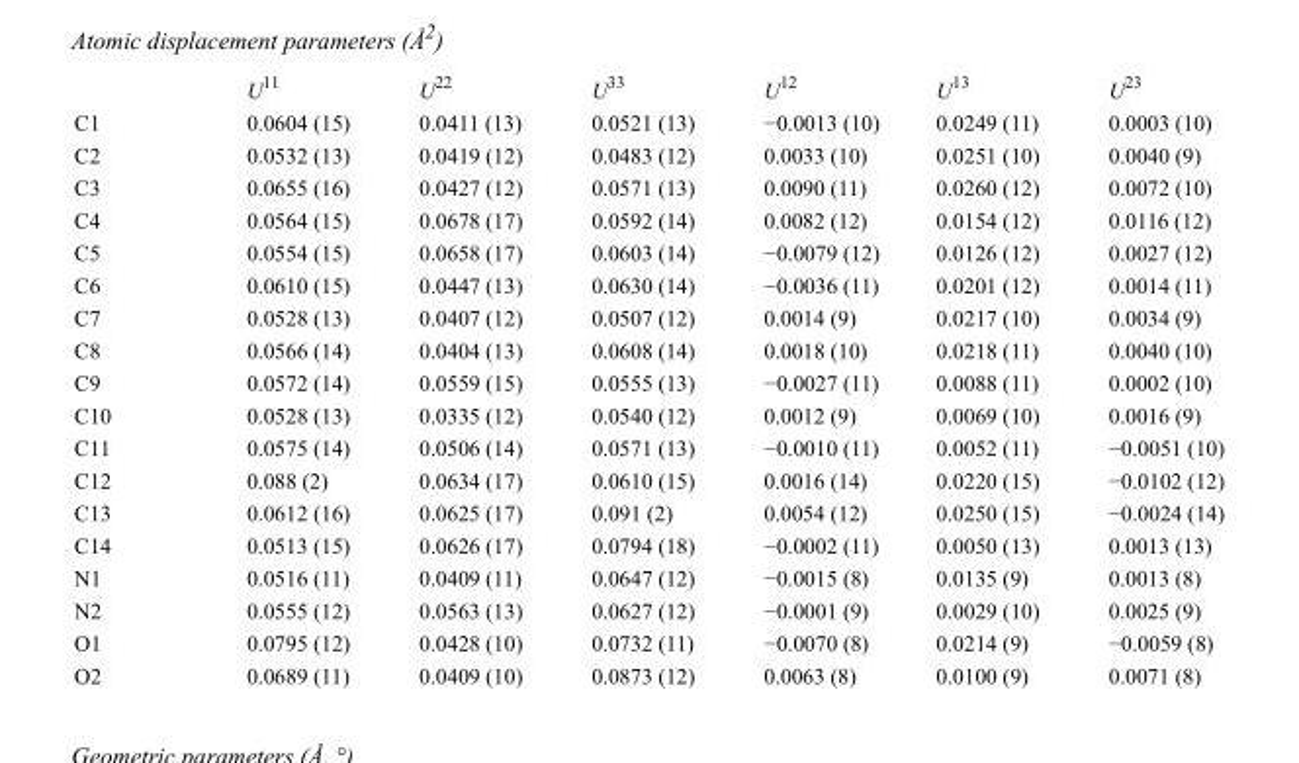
<table><thead><tr><td></td><td>U<sup>11</sup></td><td>U<sup>22</sup></td><td>U<sup>33</sup></td><td>U<sup>12</sup></td><td>U<sup>13</sup></td><td>U<sup>23</sup></td></tr></thead><tbody><tr><td>C1</td><td>0.0604 (15)</td><td>0.0411 (13)</td><td>0.0521 (13)</td><td>−0.0013 (10)</td><td>0.0249 (11)</td><td>0.0003 (10)</td></tr><tr><td>C2</td><td>0.0532 (13)</td><td>0.0419 (12)</td><td>0.0483 (12)</td><td>0.0033 (10)</td><td>0.0251 (10)</td><td>0.0040 (9)</td></tr><tr><td>C3</td><td>0.0655 (16)</td><td>0.0427 (12)</td><td>0.0571 (13)</td><td>0.0090 (11)</td><td>0.0260 (12)</td><td>0.0072 (10)</td></tr><tr><td>C4</td><td>0.0564 (15)</td><td>0.0678 (17)</td><td>0.0592 (14)</td><td>0.0082 (12)</td><td>0.0154 (12)</td><td>0.0116 (12)</td></tr><tr><td>C5</td><td>0.0554 (15)</td><td>0.0658 (17)</td><td>0.0603 (14)</td><td>−0.0079 (12)</td><td>0.0126 (12)</td><td>0.0027 (12)</td></tr><tr><td>C6</td><td>0.0610 (15)</td><td>0.0447 (13)</td><td>0.0630 (14)</td><td>−0.0036 (11)</td><td>0.0201 (12)</td><td>0.0014 (11)</td></tr><tr><td>C7</td><td>0.0528 (13)</td><td>0.0407 (12)</td><td>0.0507 (12)</td><td>0.0014 (9)</td><td>0.0217 (10)</td><td>0.0034 (9)</td></tr><tr><td>C8</td><td>0.0566 (14)</td><td>0.0404 (13)</td><td>0.0608 (14)</td><td>0.0018 (10)</td><td>0.0218 (11)</td><td>0.0040 (10)</td></tr><tr><td>C9</td><td>0.0572 (14)</td><td>0.0559 (15)</td><td>0.0555 (13)</td><td>−0.0027 (11)</td><td>0.0088 (11)</td><td>0.0002 (10)</td></tr><tr><td>C10</td><td>0.0528 (13)</td><td>0.0335 (12)</td><td>0.0540 (12)</td><td>0.0012 (9)</td><td>0.0069 (10)</td><td>0.0016 (9)</td></tr><tr><td>C11</td><td>0.0575 (14)</td><td>0.0506 (14)</td><td>0.0571 (13)</td><td>−0.0010 (11)</td><td>0.0052 (11)</td><td>−0.0051 (10)</td></tr><tr><td>C12</td><td>0.088 (2)</td><td>0.0634 (17)</td><td>0.0610 (15)</td><td>0.0016 (14)</td><td>0.0220 (15)</td><td>−0.0102 (12)</td></tr><tr><td>C13</td><td>0.0612 (16)</td><td>0.0625 (17)</td><td>0.091 (2)</td><td>0.0054 (12)</td><td>0.0250 (15)</td><td>−0.0024 (14)</td></tr><tr><td>C14</td><td>0.0513 (15)</td><td>0.0626 (17)</td><td>0.0794 (18)</td><td>−0.0002 (11)</td><td>0.0050 (13)</td><td>0.0013 (13)</td></tr><tr><td>N1</td><td>0.0516 (11)</td><td>0.0409 (11)</td><td>0.0647 (12)</td><td>−0.0015 (8)</td><td>0.0135 (9)</td><td>0.0013 (8)</td></tr><tr><td>N2</td><td>0.0555 (12)</td><td>0.0563 (13)</td><td>0.0627 (12)</td><td>−0.0001 (9)</td><td>0.0029 (10)</td><td>0.0025 (9)</td></tr><tr><td>O1</td><td>0.0795 (12)</td><td>0.0428 (10)</td><td>0.0732 (11)</td><td>−0.0070 (8)</td><td>0.0214 (9)</td><td>−0.0059 (8)</td></tr><tr><td>O2</td><td>0.0689 (11)</td><td>0.0409 (10)</td><td>0.0873 (12)</td><td>0.0063 (8)</td><td>0.0100 (9)</td><td>0.0071 (8)</td></tr></tbody></table>